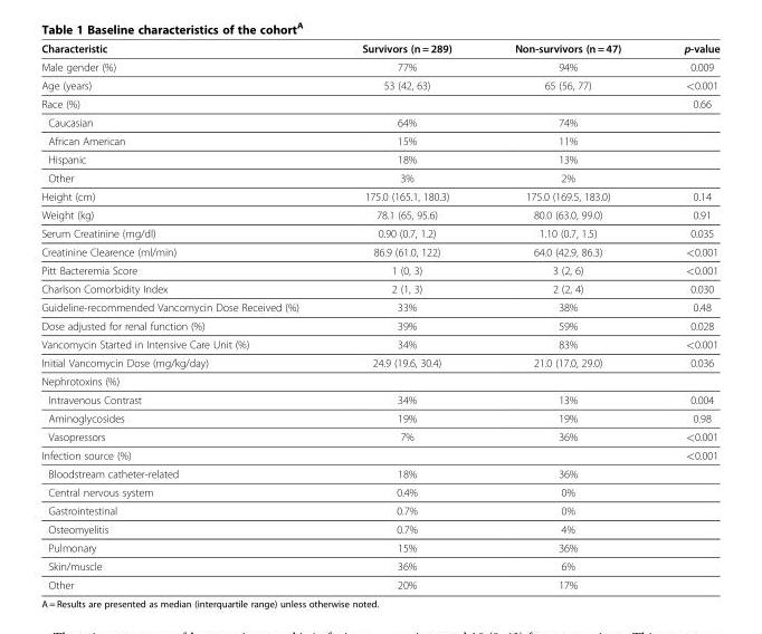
<table><thead><tr><td>Characteristic</td><td>Survivors (n = 289)</td><td>Non-survivors (n = 47)</td><td>p-value</td></tr></thead><tbody><tr><td>Male gender (%)</td><td>77%</td><td>94%</td><td>0.009</td></tr><tr><td>Age (years)</td><td>53 (42, 63)</td><td>65 (56, 77)</td><td>&lt;0.001</td></tr><tr><td>Race (%)</td><td></td><td></td><td>0.66</td></tr><tr><td>Caucasian</td><td>64%</td><td>74%</td><td></td></tr><tr><td>African American</td><td>15%</td><td>11%</td><td></td></tr><tr><td>Hispanic</td><td>18%</td><td>13%</td><td></td></tr><tr><td>Other</td><td>3%</td><td>2%</td><td></td></tr><tr><td>Height (cm)</td><td>175.0 (165.1, 180.3)</td><td>175.0 (169.5, 183.0)</td><td>0.14</td></tr><tr><td>Weight (kg)</td><td>78.1 (65, 95.6)</td><td>80.0 (63.0, 99.0)</td><td>0.91</td></tr><tr><td>Serum Creatinine (mg/dl)</td><td>0.90 (0.7, 1.2)</td><td>1.10 (0.7, 1.5)</td><td>0.035</td></tr><tr><td>Creatinine Clearence (ml/min)</td><td>86.9 (61.0, 122)</td><td>64.0 (42.9, 86.3)</td><td>&lt;0.001</td></tr><tr><td>Pitt Bacteremia Score</td><td>1 (0, 3)</td><td>3 (2, 6)</td><td>&lt;0.001</td></tr><tr><td>Charlson Comorbidity Index</td><td>2 (1, 3)</td><td>2 (2, 4)</td><td>0.030</td></tr><tr><td>Guideline-recommended Vancomycin Dose Received (%)</td><td>33%</td><td>38%</td><td>0.48</td></tr><tr><td>Dose adjusted for renal function (%)</td><td>39%</td><td>59%</td><td>0.028</td></tr><tr><td>Vancomycin Started in Intensive Care Unit (%)</td><td>34%</td><td>83%</td><td>&lt;0.001</td></tr><tr><td>Initial Vancomycin Dose (mg/kg/day)</td><td>24.9 (19.6, 30.4)</td><td>21.0 (17.0, 29.0)</td><td>0.036</td></tr><tr><td colspan="4">Nephrotoxins (%)</td></tr><tr><td>Intravenous Contrast</td><td>34%</td><td>13%</td><td>0.004</td></tr><tr><td>Aminoglycosides</td><td>19%</td><td>19%</td><td>0.98</td></tr><tr><td>Vasopressors</td><td>7%</td><td>36%</td><td>&lt;0.001</td></tr><tr><td>Infection source (%)</td><td></td><td></td><td>&lt;0.001</td></tr><tr><td>Bloodstream catheter-related</td><td>18%</td><td>36%</td><td></td></tr><tr><td>Central nervous system</td><td>0.4%</td><td>0%</td><td></td></tr><tr><td>Gastrointestinal</td><td>0.7%</td><td>0%</td><td></td></tr><tr><td>Osteomyelitis</td><td>0.7%</td><td>4%</td><td></td></tr><tr><td>Pulmonary</td><td>15%</td><td>36%</td><td></td></tr><tr><td>Skin/muscle</td><td>36%</td><td>6%</td><td></td></tr><tr><td>Other</td><td>20%</td><td>17%</td><td></td></tr></tbody></table>